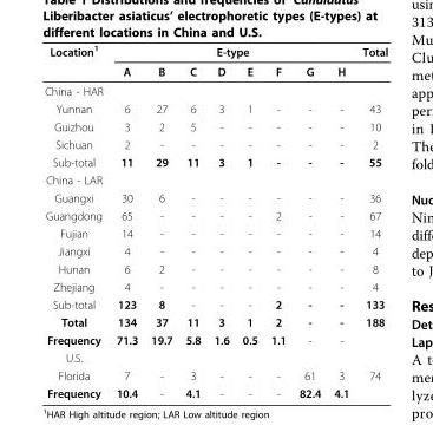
<table><thead><tr><td rowspan="2">Location<sup>1</sup></td><td colspan="8">E-type</td><td rowspan="2">Total</td></tr><tr><td>A</td><td>B</td><td>C</td><td>D</td><td>E</td><td>F</td><td>G</td><td>H</td></tr></thead><tbody><tr><td colspan="10">China - HAR</td></tr><tr><td>Yunnan</td><td>6</td><td>27</td><td>6</td><td>3</td><td>1</td><td>-</td><td>-</td><td>-</td><td>43</td></tr><tr><td>Guizhou</td><td>3</td><td>2</td><td>5</td><td>-</td><td>-</td><td>-</td><td>-</td><td>-</td><td>10</td></tr><tr><td>Sichuan</td><td>2</td><td>-</td><td>-</td><td>-</td><td>-</td><td>-</td><td>-</td><td>-</td><td>2</td></tr><tr><td>Sub-total</td><td>11</td><td>29</td><td>11</td><td>3</td><td>1</td><td>-</td><td>-</td><td>-</td><td>55</td></tr><tr><td colspan="10">China - LAR</td></tr><tr><td>Guangxi</td><td>30</td><td>6</td><td>-</td><td>-</td><td>-</td><td>-</td><td>-</td><td>-</td><td>36</td></tr><tr><td>Guangdong</td><td>65</td><td>-</td><td>-</td><td>-</td><td>-</td><td>2</td><td>-</td><td>-</td><td>67</td></tr><tr><td>Fujian</td><td>14</td><td>-</td><td>-</td><td>-</td><td>-</td><td>-</td><td>-</td><td>-</td><td>14</td></tr><tr><td>Jiangxi</td><td>4</td><td>-</td><td>-</td><td>-</td><td>-</td><td>-</td><td>-</td><td>-</td><td>4</td></tr><tr><td>Hunan</td><td>6</td><td>2</td><td>-</td><td>-</td><td>-</td><td>-</td><td>-</td><td>-</td><td>8</td></tr><tr><td>Zhejiang</td><td>4</td><td>-</td><td>-</td><td>-</td><td>-</td><td>-</td><td>-</td><td>-</td><td>4</td></tr><tr><td>Sub-total</td><td>123</td><td>8</td><td>-</td><td>-</td><td>-</td><td>2</td><td>-</td><td>-</td><td>133</td></tr><tr><td>Total</td><td>134</td><td>37</td><td>11</td><td>3</td><td>1</td><td>2</td><td>-</td><td>-</td><td>188</td></tr><tr><td>Frequency</td><td>71.3</td><td>19.7</td><td>5.8</td><td>1.6</td><td>0.5</td><td>1.1</td><td>-</td><td>-</td><td></td></tr><tr><td colspan="10">U.S.</td></tr><tr><td>Florida</td><td>7</td><td>-</td><td>3</td><td>-</td><td>-</td><td>-</td><td>61</td><td>3</td><td>74</td></tr><tr><td>Frequency</td><td>10.4</td><td>-</td><td>4.1</td><td>-</td><td>-</td><td>-</td><td>82.4</td><td>4.1</td><td></td></tr></tbody></table>